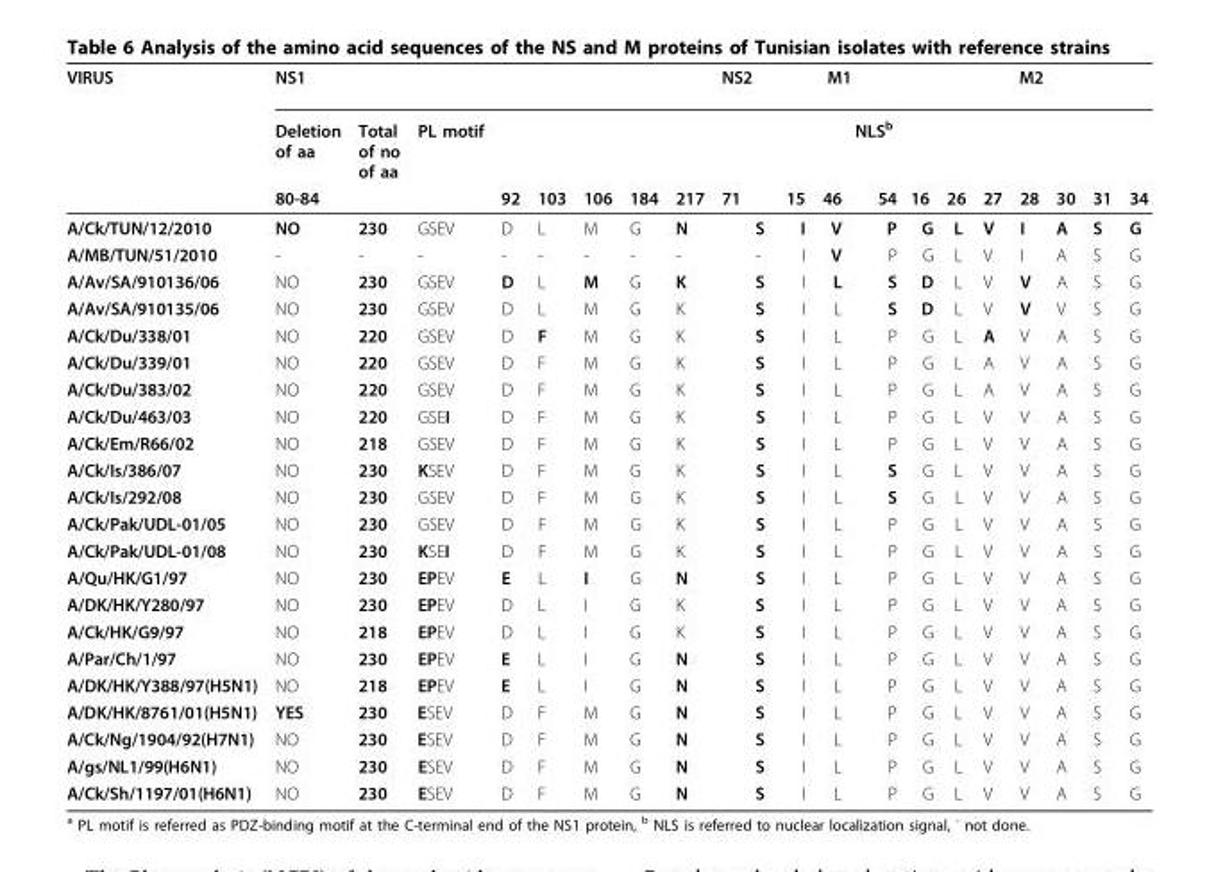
<table><thead><tr><td rowspan="3">VIRUS</td><td colspan="8">NS1</td><td rowspan="3">NS2 71</td><td colspan="3">M1</td><td colspan="7">M2</td></tr><tr><td rowspan="2">Deletion of aa 80-84</td><td rowspan="2">Total of no of aa</td><td rowspan="2">PL motif</td><td rowspan="2">92</td><td rowspan="2">103</td><td rowspan="2">106</td><td rowspan="2">184</td><td rowspan="2">217</td><td rowspan="2">15</td><td rowspan="2">46</td><td rowspan="2">NLS<sup>b</sup> 54</td><td rowspan="2">16</td><td rowspan="2">26</td><td rowspan="2">27</td><td rowspan="2">28</td><td rowspan="2">30</td><td rowspan="2">31</td><td rowspan="2">34</td></tr><tr></tr></thead><tbody><tr><td>A/Ck/TUN/12/2010</td><td>NO</td><td>230</td><td>GSEV</td><td>D</td><td>L</td><td>M</td><td>G</td><td>N</td><td>S</td><td>I</td><td>V</td><td>P</td><td>G</td><td>L</td><td>V</td><td>I</td><td>A</td><td>S</td><td>G</td></tr><tr><td>A/MB/TUN/51/2010</td><td>-</td><td>-</td><td>-</td><td>-</td><td>-</td><td>-</td><td>-</td><td>-</td><td>-</td><td>I</td><td>V</td><td>P</td><td>G</td><td>L</td><td>V</td><td>I</td><td>A</td><td>S</td><td>G</td></tr><tr><td>A/Av/SA/910136/06</td><td>NO</td><td>230</td><td>GSEV</td><td>D</td><td>L</td><td>M</td><td>G</td><td>K</td><td>S</td><td>I</td><td>L</td><td>S</td><td>D</td><td>L</td><td>V</td><td>V</td><td>A</td><td>S</td><td>G</td></tr><tr><td>A/Av/SA/910135/06</td><td>NO</td><td>230</td><td>GSEV</td><td>D</td><td>L</td><td>M</td><td>G</td><td>K</td><td>S</td><td>I</td><td>L</td><td>S</td><td>D</td><td>L</td><td>V</td><td>V</td><td>V</td><td>S</td><td>G</td></tr><tr><td>A/Ck/Du/338/01</td><td>NO</td><td>220</td><td>GSEV</td><td>D</td><td>F</td><td>M</td><td>G</td><td>K</td><td>S</td><td>I</td><td>L</td><td>P</td><td>G</td><td>L</td><td>A</td><td>V</td><td>A</td><td>S</td><td>G</td></tr><tr><td>A/Ck/Du/339/01</td><td>NO</td><td>220</td><td>GSEV</td><td>D</td><td>F</td><td>M</td><td>G</td><td>K</td><td>S</td><td>I</td><td>L</td><td>P</td><td>G</td><td>L</td><td>A</td><td>V</td><td>A</td><td>S</td><td>G</td></tr><tr><td>A/Ck/Du/383/02</td><td>NO</td><td>220</td><td>GSEV</td><td>D</td><td>F</td><td>M</td><td>G</td><td>K</td><td>S</td><td>I</td><td>L</td><td>P</td><td>G</td><td>L</td><td>A</td><td>V</td><td>A</td><td>S</td><td>G</td></tr><tr><td>A/Ck/Du/463/03</td><td>NO</td><td>220</td><td>GSEI</td><td>D</td><td>F</td><td>M</td><td>G</td><td>K</td><td>S</td><td>I</td><td>L</td><td>P</td><td>G</td><td>L</td><td>V</td><td>V</td><td>A</td><td>S</td><td>G</td></tr><tr><td>A/Ck/Em/R66/02</td><td>NO</td><td>218</td><td>GSEV</td><td>D</td><td>F</td><td>M</td><td>G</td><td>K</td><td>S</td><td>I</td><td>L</td><td>P</td><td>G</td><td>L</td><td>V</td><td>V</td><td>A</td><td>S</td><td>G</td></tr><tr><td>A/Ck/Is/386/07</td><td>NO</td><td>230</td><td>KSEV</td><td>D</td><td>F</td><td>M</td><td>G</td><td>K</td><td>S</td><td>I</td><td>L</td><td>S</td><td>G</td><td>L</td><td>V</td><td>V</td><td>A</td><td>S</td><td>G</td></tr><tr><td>A/Ck/Is/292/08</td><td>NO</td><td>230</td><td>GSEV</td><td>D</td><td>F</td><td>M</td><td>G</td><td>K</td><td>S</td><td>I</td><td>L</td><td>S</td><td>G</td><td>L</td><td>V</td><td>V</td><td>A</td><td>S</td><td>G</td></tr><tr><td>A/Ck/Pak/UDL-01/05</td><td>NO</td><td>230</td><td>GSEV</td><td>D</td><td>F</td><td>M</td><td>G</td><td>K</td><td>S</td><td>I</td><td>L</td><td>P</td><td>G</td><td>L</td><td>V</td><td>V</td><td>A</td><td>S</td><td>G</td></tr><tr><td>A/Ck/Pak/UDL-01/08</td><td>NO</td><td>230</td><td>KSEI</td><td>D</td><td>F</td><td>M</td><td>G</td><td>K</td><td>S</td><td>I</td><td>L</td><td>P</td><td>G</td><td>L</td><td>V</td><td>V</td><td>A</td><td>S</td><td>G</td></tr><tr><td>A/Qu/HK/G1/97</td><td>NO</td><td>230</td><td>EPEV</td><td>E</td><td>L</td><td>I</td><td>G</td><td>N</td><td>S</td><td>I</td><td>L</td><td>P</td><td>G</td><td>L</td><td>V</td><td>V</td><td>A</td><td>S</td><td>G</td></tr><tr><td>A/DK/HK/Y280/97</td><td>NO</td><td>230</td><td>EPEV</td><td>D</td><td>L</td><td>I</td><td>G</td><td>K</td><td>S</td><td>I</td><td>L</td><td>P</td><td>G</td><td>L</td><td>V</td><td>V</td><td>A</td><td>S</td><td>G</td></tr><tr><td>A/Ck/HK/G9/97</td><td>NO</td><td>218</td><td>EPEV</td><td>D</td><td>L</td><td>I</td><td>G</td><td>K</td><td>S</td><td>I</td><td>L</td><td>P</td><td>G</td><td>L</td><td>V</td><td>V</td><td>A</td><td>S</td><td>G</td></tr><tr><td>A/Par/Ch/1/97</td><td>NO</td><td>230</td><td>EPEV</td><td>E</td><td>L</td><td>I</td><td>G</td><td>N</td><td>S</td><td>I</td><td>L</td><td>P</td><td>G</td><td>L</td><td>V</td><td>V</td><td>A</td><td>S</td><td>G</td></tr><tr><td>A/DK/HK/Y388/97(H5N1)</td><td>NO</td><td>218</td><td>EPEV</td><td>E</td><td>L</td><td>I</td><td>G</td><td>N</td><td>S</td><td>I</td><td>L</td><td>P</td><td>G</td><td>L</td><td>V</td><td>V</td><td>A</td><td>S</td><td>G</td></tr><tr><td>A/DK/HK/8761/01(H5N1)</td><td>YES</td><td>230</td><td>ESEV</td><td>D</td><td>F</td><td>M</td><td>G</td><td>N</td><td>S</td><td>I</td><td>L</td><td>P</td><td>G</td><td>L</td><td>V</td><td>V</td><td>A</td><td>S</td><td>G</td></tr><tr><td>A/Ck/Ng/1904/92(H7N1)</td><td>NO</td><td>230</td><td>ESEV</td><td>D</td><td>F</td><td>M</td><td>G</td><td>N</td><td>S</td><td>I</td><td>L</td><td>P</td><td>G</td><td>L</td><td>V</td><td>V</td><td>A</td><td>S</td><td>G</td></tr><tr><td>A/gs/NL1/99(H6N1)</td><td>NO</td><td>230</td><td>ESEV</td><td>D</td><td>F</td><td>M</td><td>G</td><td>N</td><td>S</td><td>I</td><td>L</td><td>P</td><td>G</td><td>L</td><td>V</td><td>V</td><td>A</td><td>S</td><td>G</td></tr><tr><td>A/Ck/Sh/1197/01(H6N1)</td><td>NO</td><td>230</td><td>ESEV</td><td>D</td><td>F</td><td>M</td><td>G</td><td>N</td><td>S</td><td>I</td><td>L</td><td>P</td><td>G</td><td>L</td><td>V</td><td>V</td><td>A</td><td>S</td><td>G</td></tr></tbody></table>